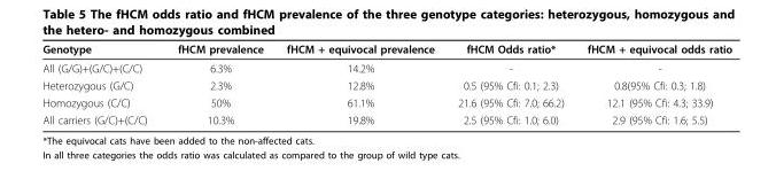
<table><thead><tr><td>Genotype</td><td>fHCM prevalence</td><td>fHCM + equivocal prevalence</td><td>fHCM Odds ratio*</td><td>fHCM + equivocal odds ratio</td></tr></thead><tbody><tr><td>All (G/G)+(G/C)+(C/C)</td><td>6.3%</td><td>14.2%</td><td>-</td><td>-</td></tr><tr><td>Heterozygous (G/C)</td><td>2.3%</td><td>12.8%</td><td>0.5 (95% Cfi: 0.1; 2.3)</td><td>0.8(95% Cfi: 0.3; 1.8)</td></tr><tr><td>Homozygous (C/C)</td><td>50%</td><td>61.1%</td><td>21.6 (95% Cfi: 7.0; 66.2)</td><td>12.1 (95% Cfi: 4.3; 33.9)</td></tr><tr><td>All carriers (G/C)+(C/C)</td><td>10.3%</td><td>19.8%</td><td>2.5 (95% Cfi: 1.0; 6.0)</td><td>2.9 (95% Cfi: 1.6; 5.5)</td></tr></tbody></table>